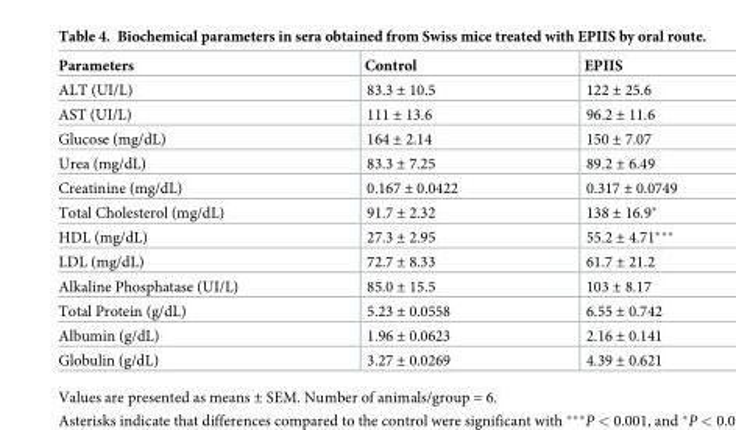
<table><thead><tr><td>Parameters</td><td>Control</td><td>EPIIS</td></tr></thead><tbody><tr><td>ALT (UI/L)</td><td>83.3 ± 10.5</td><td>122 ± 25.6</td></tr><tr><td>AST (UI/L)</td><td>111 ± 13.6</td><td>96.2 ± 11.6</td></tr><tr><td>Glucose (mg/dL)</td><td>164 ± 2.14</td><td>150 ± 7.07</td></tr><tr><td>Urea (mg/dL)</td><td>83.3 ± 7.25</td><td>89.2 ± 6.49</td></tr><tr><td>Creatinine (mg/dL)</td><td>0.167 ± 0.0422</td><td>0.317 ± 0.0749</td></tr><tr><td>Total Cholesterol (mg/dL)</td><td>91.7 ± 2.32</td><td>138 ± 16.9*</td></tr><tr><td>HDL (mg/dL)</td><td>27.3 ± 2.95</td><td>55.2 ± 4.71***</td></tr><tr><td>LDL (mg/dL)</td><td>72.7 ± 8.33</td><td>61.7 ± 21.2</td></tr><tr><td>Alkaline Phosphatase (UI/L)</td><td>85.0 ± 15.5</td><td>103 ± 8.17</td></tr><tr><td>Total Protein (g/dL)</td><td>5.23 ± 0.0558</td><td>6.55 ± 0.742</td></tr><tr><td>Albumin (g/dL)</td><td>1.96 ± 0.0623</td><td>2.16 ± 0.141</td></tr><tr><td>Globulin (g/dL)</td><td>3.27 ± 0.0269</td><td>4.39 ± 0.621</td></tr></tbody></table>